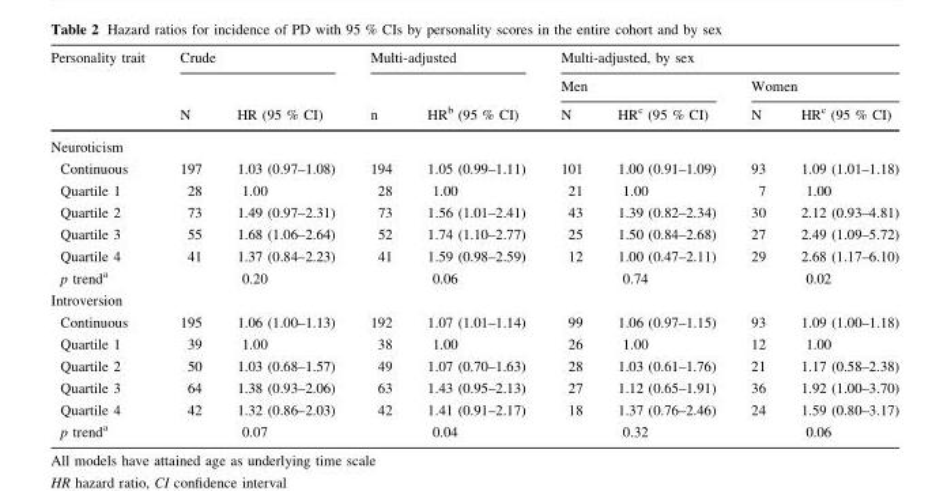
<table><thead><tr><td rowspan="3">Personality trait</td><td colspan="2">Crude</td><td colspan="2">Multi-adjusted</td><td colspan="4">Multi-adjusted, by sex</td></tr><tr><td rowspan="2">N</td><td rowspan="2">HR (95 % CI)</td><td rowspan="2">n</td><td rowspan="2">HR<sup>b</sup> (95 % CI)</td><td colspan="2">Men</td><td colspan="2">Women</td></tr><tr><td>N</td><td>HR<sup>c</sup> (95 % CI)</td><td>N</td><td>HR<sup>c</sup> (95 % CI)</td></tr></thead><tbody><tr><td colspan="9">Neuroticism</td></tr><tr><td>Continuous</td><td>197</td><td>1.03 (0.97–1.08)</td><td>194</td><td>1.05 (0.99–1.11)</td><td>101</td><td>1.00 (0.91–1.09)</td><td>93</td><td>1.09 (1.01–1.18)</td></tr><tr><td>Quartile 1</td><td>28</td><td>1.00</td><td>28</td><td>1.00</td><td>21</td><td>1.00</td><td>7</td><td>1.00</td></tr><tr><td>Quartile 2</td><td>73</td><td>1.49 (0.97–2.31)</td><td>73</td><td>1.56 (1.01–2.41)</td><td>43</td><td>1.39 (0.82–2.34)</td><td>30</td><td>2.12 (0.93–4.81)</td></tr><tr><td>Quartile 3</td><td>55</td><td>1.68 (1.06–2.64)</td><td>52</td><td>1.74 (1.10–2.77)</td><td>25</td><td>1.50 (0.84–2.68)</td><td>27</td><td>2.49 (1.09–5.72)</td></tr><tr><td>Quartile 4</td><td>41</td><td>1.37 (0.84–2.23)</td><td>41</td><td>1.59 (0.98–2.59)</td><td>12</td><td>1.00 (0.47–2.11)</td><td>29</td><td>2.68 (1.17–6.10)</td></tr><tr><td>p trend<sup>a</sup></td><td></td><td>0.20</td><td></td><td>0.06</td><td></td><td>0.74</td><td></td><td>0.02</td></tr><tr><td colspan="9">Introversion</td></tr><tr><td>Continuous</td><td>195</td><td>1.06 (1.00–1.13)</td><td>192</td><td>1.07 (1.01–1.14)</td><td>99</td><td>1.06 (0.97–1.15)</td><td>93</td><td>1.09 (1.00–1.18)</td></tr><tr><td>Quartile 1</td><td>39</td><td>1.00</td><td>38</td><td>1.00</td><td>26</td><td>1.00</td><td>12</td><td>1.00</td></tr><tr><td>Quartile 2</td><td>50</td><td>1.03 (0.68–1.57)</td><td>49</td><td>1.07 (0.70–1.63)</td><td>28</td><td>1.03 (0.61–1.76)</td><td>21</td><td>1.17 (0.58–2.38)</td></tr><tr><td>Quartile 3</td><td>64</td><td>1.38 (0.93–2.06)</td><td>63</td><td>1.43 (0.95–2.13)</td><td>27</td><td>1.12 (0.65–1.91)</td><td>36</td><td>1.92 (1.00–3.70)</td></tr><tr><td>Quartile 4</td><td>42</td><td>1.32 (0.86–2.03)</td><td>42</td><td>1.41 (0.91–2.17)</td><td>18</td><td>1.37 (0.76–2.46)</td><td>24</td><td>1.59 (0.80–3.17)</td></tr><tr><td>p trend<sup>a</sup></td><td></td><td>0.07</td><td></td><td>0.04</td><td></td><td>0.32</td><td></td><td>0.06</td></tr></tbody></table>